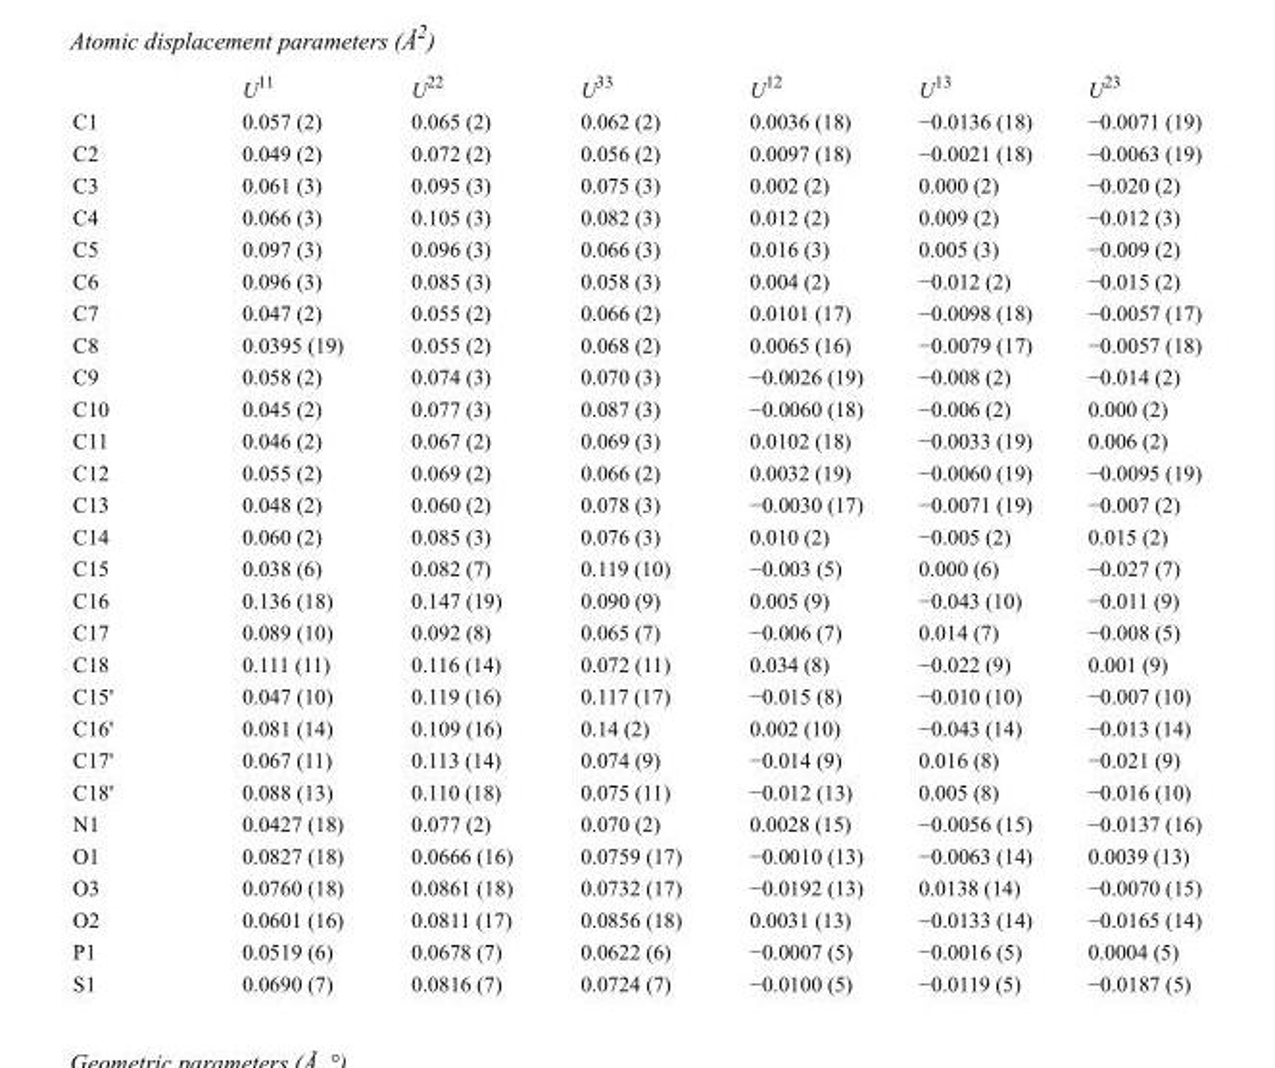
<table><thead><tr><td></td><td>U<sup>11</sup></td><td>U<sup>22</sup></td><td>U<sup>33</sup></td><td>U<sup>12</sup></td><td>U<sup>13</sup></td><td>U<sup>23</sup></td></tr></thead><tbody><tr><td>C1</td><td>0.057 (2)</td><td>0.065 (2)</td><td>0.062 (2)</td><td>0.0036 (18)</td><td>−0.0136 (18)</td><td>−0.0071 (19)</td></tr><tr><td>C2</td><td>0.049 (2)</td><td>0.072 (2)</td><td>0.056 (2)</td><td>0.0097 (18)</td><td>−0.0021 (18)</td><td>−0.0063 (19)</td></tr><tr><td>C3</td><td>0.061 (3)</td><td>0.095 (3)</td><td>0.075 (3)</td><td>0.002 (2)</td><td>0.000 (2)</td><td>−0.020 (2)</td></tr><tr><td>C4</td><td>0.066 (3)</td><td>0.105 (3)</td><td>0.082 (3)</td><td>0.012 (2)</td><td>0.009 (2)</td><td>−0.012 (3)</td></tr><tr><td>C5</td><td>0.097 (3)</td><td>0.096 (3)</td><td>0.066 (3)</td><td>0.016 (3)</td><td>0.005 (3)</td><td>−0.009 (2)</td></tr><tr><td>C6</td><td>0.096 (3)</td><td>0.085 (3)</td><td>0.058 (3)</td><td>0.004 (2)</td><td>−0.012 (2)</td><td>−0.015 (2)</td></tr><tr><td>C7</td><td>0.047 (2)</td><td>0.055 (2)</td><td>0.066 (2)</td><td>0.0101 (17)</td><td>−0.0098 (18)</td><td>−0.0057 (17)</td></tr><tr><td>C8</td><td>0.0395 (19)</td><td>0.055 (2)</td><td>0.068 (2)</td><td>0.0065 (16)</td><td>−0.0079 (17)</td><td>−0.0057 (18)</td></tr><tr><td>C9</td><td>0.058 (2)</td><td>0.074 (3)</td><td>0.070 (3)</td><td>−0.0026 (19)</td><td>−0.008 (2)</td><td>−0.014 (2)</td></tr><tr><td>C10</td><td>0.045 (2)</td><td>0.077 (3)</td><td>0.087 (3)</td><td>−0.0060 (18)</td><td>−0.006 (2)</td><td>0.000 (2)</td></tr><tr><td>C11</td><td>0.046 (2)</td><td>0.067 (2)</td><td>0.069 (3)</td><td>0.0102 (18)</td><td>−0.0033 (19)</td><td>0.006 (2)</td></tr><tr><td>C12</td><td>0.055 (2)</td><td>0.069 (2)</td><td>0.066 (2)</td><td>0.0032 (19)</td><td>−0.0060 (19)</td><td>−0.0095 (19)</td></tr><tr><td>C13</td><td>0.048 (2)</td><td>0.060 (2)</td><td>0.078 (3)</td><td>−0.0030 (17)</td><td>−0.0071 (19)</td><td>−0.007 (2)</td></tr><tr><td>C14</td><td>0.060 (2)</td><td>0.085 (3)</td><td>0.076 (3)</td><td>0.010 (2)</td><td>−0.005 (2)</td><td>0.015 (2)</td></tr><tr><td>C15</td><td>0.038 (6)</td><td>0.082 (7)</td><td>0.119 (10)</td><td>−0.003 (5)</td><td>0.000 (6)</td><td>−0.027 (7)</td></tr><tr><td>C16</td><td>0.136 (18)</td><td>0.147 (19)</td><td>0.090 (9)</td><td>0.005 (9)</td><td>−0.043 (10)</td><td>−0.011 (9)</td></tr><tr><td>C17</td><td>0.089 (10)</td><td>0.092 (8)</td><td>0.065 (7)</td><td>−0.006 (7)</td><td>0.014 (7)</td><td>−0.008 (5)</td></tr><tr><td>C18</td><td>0.111 (11)</td><td>0.116 (14)</td><td>0.072 (11)</td><td>0.034 (8)</td><td>−0.022 (9)</td><td>0.001 (9)</td></tr><tr><td>C15&#x27;</td><td>0.047 (10)</td><td>0.119 (16)</td><td>0.117 (17)</td><td>−0.015 (8)</td><td>−0.010 (10)</td><td>−0.007 (10)</td></tr><tr><td>C16&#x27;</td><td>0.081 (14)</td><td>0.109 (16)</td><td>0.14 (2)</td><td>0.002 (10)</td><td>−0.043 (14)</td><td>−0.013 (14)</td></tr><tr><td>C17&#x27;</td><td>0.067 (11)</td><td>0.113 (14)</td><td>0.074 (9)</td><td>−0.014 (9)</td><td>0.016 (8)</td><td>−0.021 (9)</td></tr><tr><td>C18&#x27;</td><td>0.088 (13)</td><td>0.110 (18)</td><td>0.075 (11)</td><td>−0.012 (13)</td><td>0.005 (8)</td><td>−0.016 (10)</td></tr><tr><td>N1</td><td>0.0427 (18)</td><td>0.077 (2)</td><td>0.070 (2)</td><td>0.0028 (15)</td><td>−0.0056 (15)</td><td>−0.0137 (16)</td></tr><tr><td>O1</td><td>0.0827 (18)</td><td>0.0666 (16)</td><td>0.0759 (17)</td><td>−0.0010 (13)</td><td>−0.0063 (14)</td><td>0.0039 (13)</td></tr><tr><td>O3</td><td>0.0760 (18)</td><td>0.0861 (18)</td><td>0.0732 (17)</td><td>−0.0192 (13)</td><td>0.0138 (14)</td><td>−0.0070 (15)</td></tr><tr><td>O2</td><td>0.0601 (16)</td><td>0.0811 (17)</td><td>0.0856 (18)</td><td>0.0031 (13)</td><td>−0.0133 (14)</td><td>−0.0165 (14)</td></tr><tr><td>P1</td><td>0.0519 (6)</td><td>0.0678 (7)</td><td>0.0622 (6)</td><td>−0.0007 (5)</td><td>−0.0016 (5)</td><td>0.0004 (5)</td></tr><tr><td>S1</td><td>0.0690 (7)</td><td>0.0816 (7)</td><td>0.0724 (7)</td><td>−0.0100 (5)</td><td>−0.0119 (5)</td><td>−0.0187 (5)</td></tr></tbody></table>